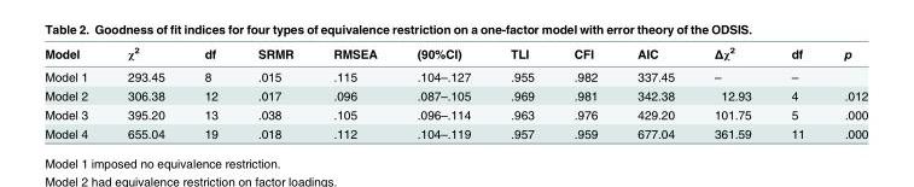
<table><thead><tr><td>Model</td><td>χ<sup>2</sup></td><td>df</td><td>SRMR</td><td>RMSEA</td><td>(90%CI)</td><td>TLI</td><td>CFI</td><td>AIC</td><td>Δχ<sup>2</sup></td><td>df</td><td>p</td></tr></thead><tbody><tr><td>Model 1</td><td>293.45</td><td>8</td><td>.015</td><td>.115</td><td>.104–.127</td><td>.955</td><td>.982</td><td>337.45</td><td>–</td><td>–</td><td></td></tr><tr><td>Model 2</td><td>306.38</td><td>12</td><td>.017</td><td>.096</td><td>.087–.105</td><td>.969</td><td>.981</td><td>342.38</td><td>12.93</td><td>4</td><td>.012</td></tr><tr><td>Model 3</td><td>395.20</td><td>13</td><td>.038</td><td>.105</td><td>.096–.114</td><td>.963</td><td>.976</td><td>429.20</td><td>101.75</td><td>5</td><td>.000</td></tr><tr><td>Model 4</td><td>655.04</td><td>19</td><td>.018</td><td>.112</td><td>.104–.119</td><td>.957</td><td>.959</td><td>677.04</td><td>361.59</td><td>11</td><td>.000</td></tr></tbody></table>